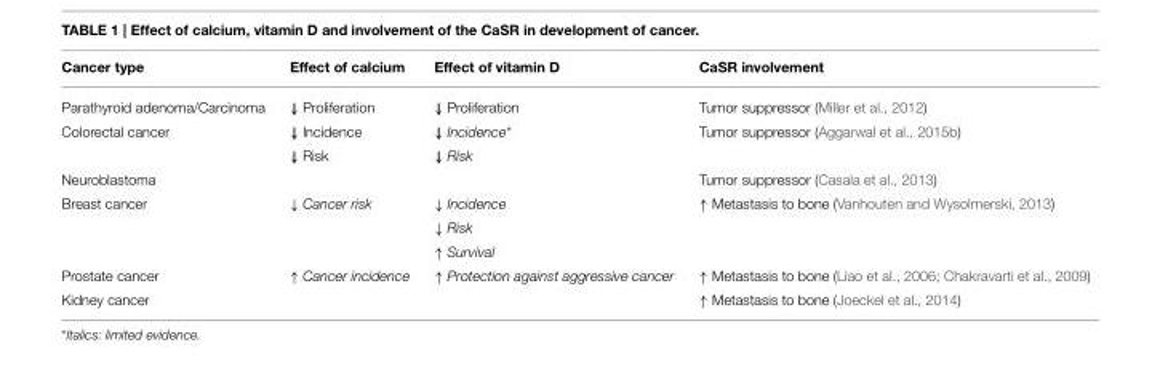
<table><thead><tr><td>Cancer type</td><td>Effect of calcium</td><td>Effect of vitamin D</td><td>CaSR involvement</td></tr></thead><tbody><tr><td>Parathyroid adenoma/Carcinoma</td><td>↓ Proliferation</td><td>↓ Proliferation</td><td>Tumor suppressor (Miller et al., 2012)</td></tr><tr><td rowspan="2">Colorectal cancer</td><td>↓ Incidence</td><td>↓ Incidence*</td><td>Tumor suppressor (Aggarwal et al., 2015b)</td></tr><tr><td>↓ Risk</td><td>↓ Risk</td><td></td></tr><tr><td>Neuroblastoma</td><td></td><td></td><td>Tumor suppressor (Casala et al., 2013)</td></tr><tr><td rowspan="3">Breast cancer</td><td>↓ Cancer risk</td><td>↓ Incidence</td><td>↑ Metastasis to bone (Vanhouten and Wysolmerski, 2013)</td></tr><tr><td></td><td>↓ Risk</td><td></td></tr><tr><td></td><td>↑ Survival</td><td></td></tr><tr><td>Prostate cancer</td><td>↑ Cancer incidence</td><td>↑ Protection against aggressive cancer</td><td>↑ Metastasis to bone (Liao et al., 2006; Chakravarti et al., 2009)</td></tr><tr><td>Kidney cancer</td><td></td><td></td><td>↑ Metastasis to bone (Joeckel et al., 2014)</td></tr></tbody></table>